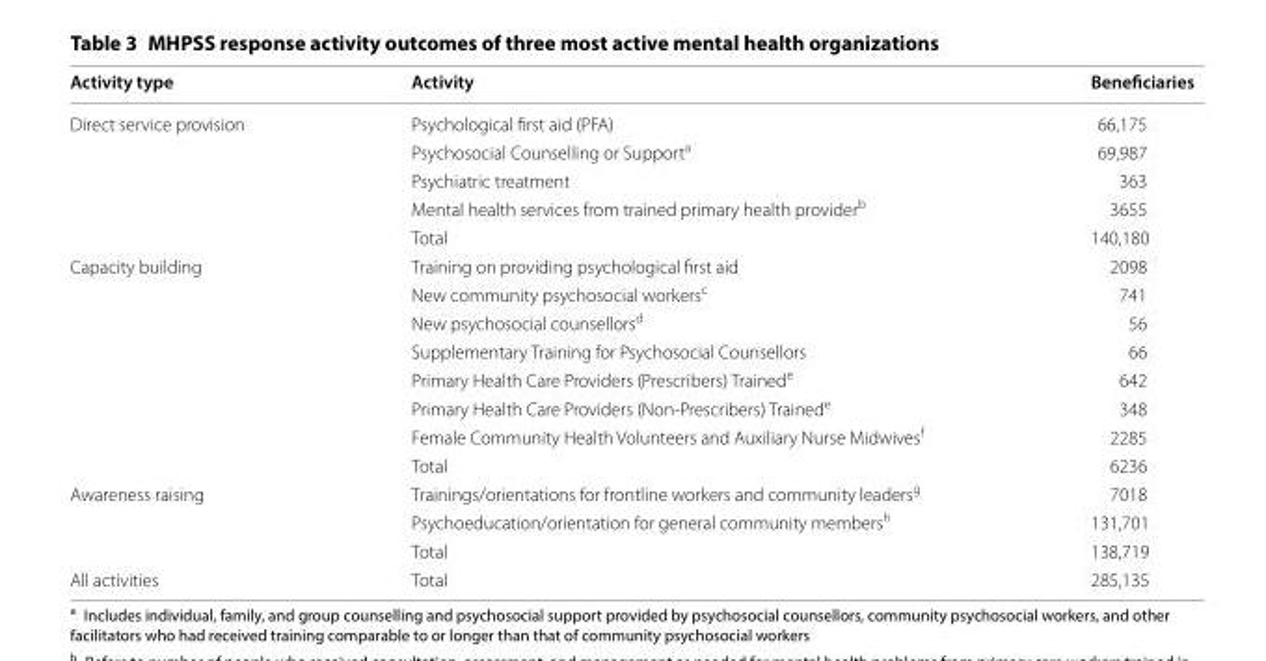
<table><thead><tr><td>Activity type</td><td>Activity</td><td>Beneficiaries</td></tr></thead><tbody><tr><td rowspan="5">Direct service provision</td><td>Psychological first aid (PFA)</td><td>66,175</td></tr><tr><td>Psychosocial Counselling or Support<sup>a</sup></td><td>69,987</td></tr><tr><td>Psychiatric treatment</td><td>363</td></tr><tr><td>Mental health services from trained primary health provider<sup>b</sup></td><td>3655</td></tr><tr><td>Total</td><td>140,180</td></tr><tr><td rowspan="8">Capacity building</td><td>Training on providing psychological first aid</td><td>2098</td></tr><tr><td>New community psychosocial workers<sup>c</sup></td><td>741</td></tr><tr><td>New psychosocial counsellors<sup>d</sup></td><td>56</td></tr><tr><td>Supplementary Training for Psychosocial Counsellors</td><td>66</td></tr><tr><td>Primary Health Care Providers (Prescribers) Trained<sup>e</sup></td><td>642</td></tr><tr><td>Primary Health Care Providers (Non-Prescribers) Trained<sup>e</sup></td><td>348</td></tr><tr><td>Female Community Health Volunteers and Auxiliary Nurse Midwives<sup>f</sup></td><td>2285</td></tr><tr><td>Total</td><td>6236</td></tr><tr><td rowspan="3">Awareness raising</td><td>Trainings/orientations for frontline workers and community leaders<sup>g</sup></td><td>7018</td></tr><tr><td>Psychoeducation/orientation for general community members<sup>h</sup></td><td>131,701</td></tr><tr><td>Total</td><td>138,719</td></tr><tr><td>All activities</td><td>Total</td><td>285,135</td></tr></tbody></table>